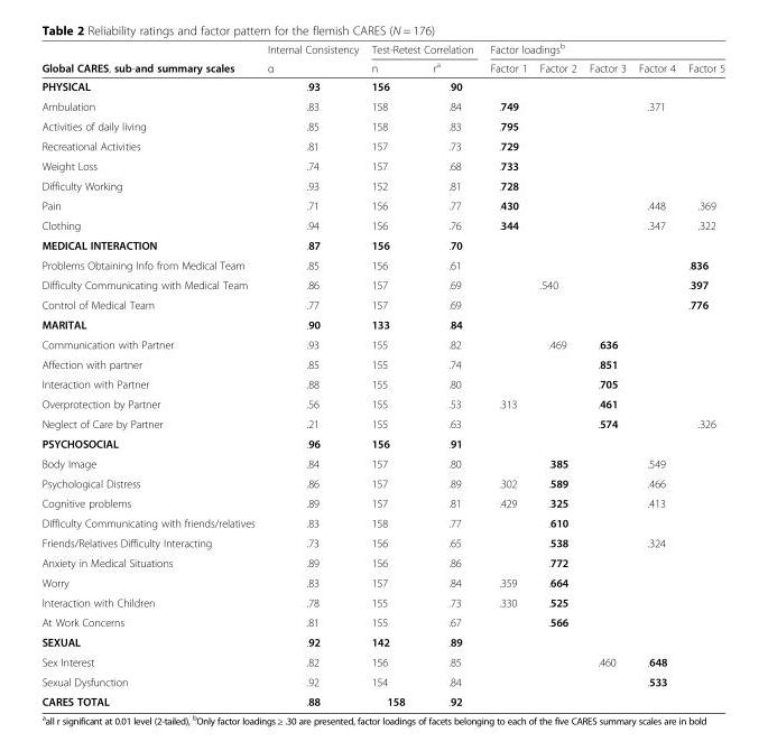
<table><thead><tr><td rowspan="2">Global CARES, sub-and summary scales</td><td rowspan="2">Internal Consistency α</td><td colspan="2">Test-Retest Correlation</td><td colspan="5">Factor loadings<sup>b</sup></td></tr><tr><td>n</td><td>r<sup>a</sup></td><td>Factor 1</td><td>Factor 2</td><td>Factor 3</td><td>Factor 4</td><td>Factor 5</td></tr></thead><tbody><tr><td>PHYSICAL</td><td>.93</td><td>156</td><td>.90</td><td></td><td></td><td></td><td></td><td></td></tr><tr><td>Ambulation</td><td>.83</td><td>158</td><td>.84</td><td>.749</td><td></td><td></td><td>.371</td><td></td></tr><tr><td>Activities of daily living</td><td>.85</td><td>158</td><td>.83</td><td>.795</td><td></td><td></td><td></td><td></td></tr><tr><td>Recreational Activities</td><td>.81</td><td>157</td><td>.73</td><td>.729</td><td></td><td></td><td></td><td></td></tr><tr><td>Weight Loss</td><td>.74</td><td>157</td><td>.68</td><td>.733</td><td></td><td></td><td></td><td></td></tr><tr><td>Difficulty Working</td><td>.93</td><td>152</td><td>.81</td><td>.728</td><td></td><td></td><td></td><td></td></tr><tr><td>Pain</td><td>.71</td><td>156</td><td>.77</td><td>.430</td><td></td><td></td><td>.448</td><td>.369</td></tr><tr><td>Clothing</td><td>.94</td><td>156</td><td>.76</td><td>.344</td><td></td><td></td><td>.347</td><td>.322</td></tr><tr><td>MEDICAL INTERACTION</td><td>.87</td><td>156</td><td>.70</td><td></td><td></td><td></td><td></td><td></td></tr><tr><td>Problems Obtaining Info from Medical Team</td><td>.85</td><td>156</td><td>.61</td><td></td><td></td><td></td><td></td><td>.836</td></tr><tr><td>Difficulty Communicating with Medical Team</td><td>.86</td><td>157</td><td>.69</td><td></td><td>.540</td><td></td><td></td><td>.397</td></tr><tr><td>Control of Medical Team</td><td>.77</td><td>157</td><td>.69</td><td></td><td></td><td></td><td></td><td>.776</td></tr><tr><td>MARITAL</td><td>.90</td><td>133</td><td>.84</td><td></td><td></td><td></td><td></td><td></td></tr><tr><td>Communication with Partner</td><td>.93</td><td>155</td><td>.82</td><td></td><td>.469</td><td>.636</td><td></td><td></td></tr><tr><td>Affection with partner</td><td>.85</td><td>155</td><td>.74</td><td></td><td></td><td>.851</td><td></td><td></td></tr><tr><td>Interaction with Partner</td><td>.88</td><td>155</td><td>.80</td><td></td><td></td><td>.705</td><td></td><td></td></tr><tr><td>Overprotection by Partner</td><td>.56</td><td>155</td><td>.53</td><td>.313</td><td></td><td>.461</td><td></td><td></td></tr><tr><td>Neglect of Care by Partner</td><td>.21</td><td>155</td><td>.63</td><td></td><td></td><td>.574</td><td></td><td>.326</td></tr><tr><td>PSYCHOSOCIAL</td><td>.96</td><td>156</td><td>.91</td><td></td><td></td><td></td><td></td><td></td></tr><tr><td>Body Image</td><td>.84</td><td>157</td><td>.80</td><td></td><td>.385</td><td></td><td>.549</td><td></td></tr><tr><td>Psychological Distress</td><td>.86</td><td>157</td><td>.89</td><td>.302</td><td>.589</td><td></td><td>.466</td><td></td></tr><tr><td>Cognitive problems</td><td>.89</td><td>157</td><td>.81</td><td>.429</td><td>.325</td><td></td><td>.413</td><td></td></tr><tr><td>Difficulty Communicating with friends/relatives</td><td>.83</td><td>158</td><td>.77</td><td></td><td>.610</td><td></td><td></td><td></td></tr><tr><td>Friends/Relatives Difficulty Interacting</td><td>.73</td><td>156</td><td>.65</td><td></td><td>.538</td><td></td><td>.324</td><td></td></tr><tr><td>Anxiety in Medical Situations</td><td>.89</td><td>156</td><td>.86</td><td></td><td>.772</td><td></td><td></td><td></td></tr><tr><td>Worry</td><td>.83</td><td>157</td><td>.84</td><td>.359</td><td>.664</td><td></td><td></td><td></td></tr><tr><td>Interaction with Children</td><td>.78</td><td>155</td><td>.73</td><td>.330</td><td>.525</td><td></td><td></td><td></td></tr><tr><td>At Work Concerns</td><td>.81</td><td>155</td><td>.67</td><td></td><td>.566</td><td></td><td></td><td></td></tr><tr><td>SEXUAL</td><td>.92</td><td>142</td><td>.89</td><td></td><td></td><td></td><td></td><td></td></tr><tr><td>Sex Interest</td><td>.82</td><td>156</td><td>.85</td><td></td><td></td><td>.460</td><td>.648</td><td></td></tr><tr><td>Sexual Dysfunction</td><td>.92</td><td>154</td><td>.84</td><td></td><td></td><td></td><td>.533</td><td></td></tr><tr><td>CARES TOTAL</td><td>.88</td><td>158</td><td>.92</td><td></td><td></td><td></td><td></td><td></td></tr></tbody></table>